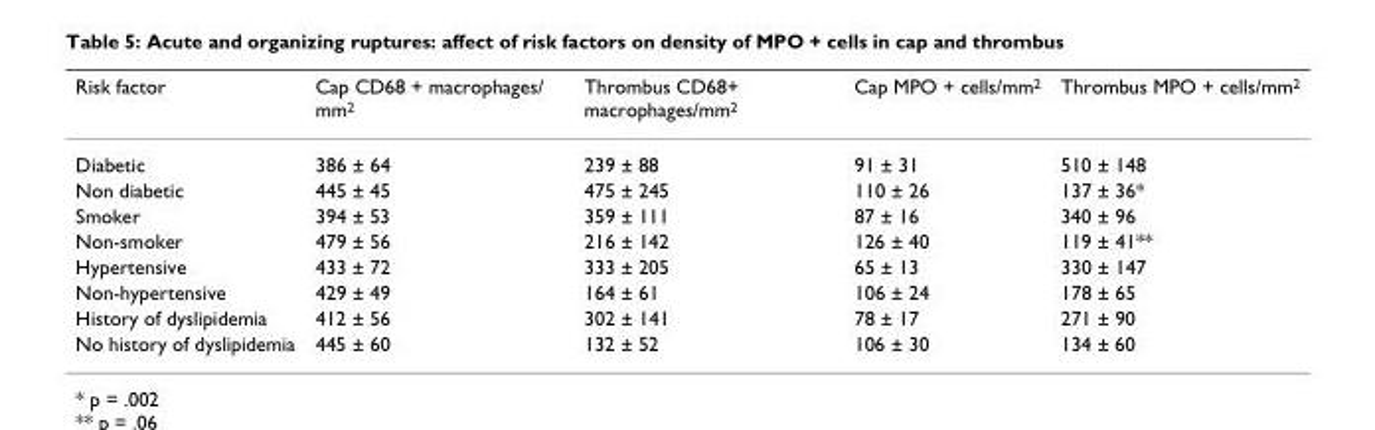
<table><thead><tr><td>Risk factor</td><td>Cap CD68 + macrophages/ mm<sup>2</sup></td><td>Thrombus CD68+ macrophages/mm<sup>2</sup></td><td>Cap MPO + cells/mm<sup>2</sup></td><td>Thrombus MPO + cells/mm<sup>2</sup></td></tr></thead><tbody><tr><td>Diabetic</td><td>386 ± 64</td><td>239 ± 88</td><td>91 ± 31</td><td>510 ± 148</td></tr><tr><td>Non diabetic</td><td>445 ± 45</td><td>475 ± 245</td><td>110 ± 26</td><td>137 ± 36*</td></tr><tr><td>Smoker</td><td>394 ± 53</td><td>359 ± 111</td><td>87 ± 16</td><td>340 ± 96</td></tr><tr><td>Non-smoker</td><td>479 ± 56</td><td>216 ± 142</td><td>126 ± 40</td><td>119 ± 41**</td></tr><tr><td>Hypertensive</td><td>433 ± 72</td><td>333 ± 205</td><td>65 ± 13</td><td>330 ± 147</td></tr><tr><td>Non-hypertensive</td><td>429 ± 49</td><td>164 ± 61</td><td>106 ± 24</td><td>178 ± 65</td></tr><tr><td>History of dyslipidemia</td><td>412 ± 56</td><td>302 ± 141</td><td>78 ± 17</td><td>271 ± 90</td></tr><tr><td>No history of dyslipidemia</td><td>445 ± 60</td><td>132 ± 52</td><td>106 ± 30</td><td>134 ± 60</td></tr></tbody></table>